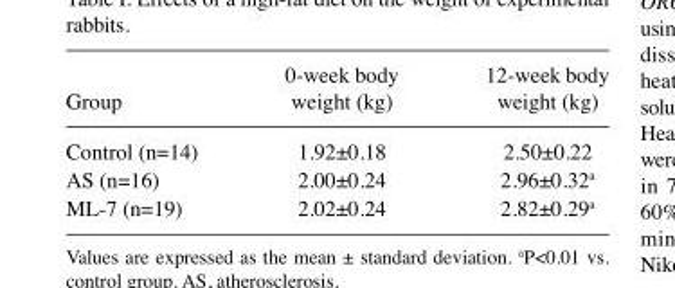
<table><thead><tr><td>Group</td><td>0-week body weight (kg)</td><td>12-week body weight (kg)</td></tr></thead><tbody><tr><td>Control (n=14)</td><td>1.92±0.18</td><td>2.50±0.22</td></tr><tr><td>AS (n=16)</td><td>2.00±0.24</td><td>2.96±0.32<sup>a</sup></td></tr><tr><td>ML‑7 (n=19)</td><td>2.02±0.24</td><td>2.82±0.29<sup>a</sup></td></tr></tbody></table>